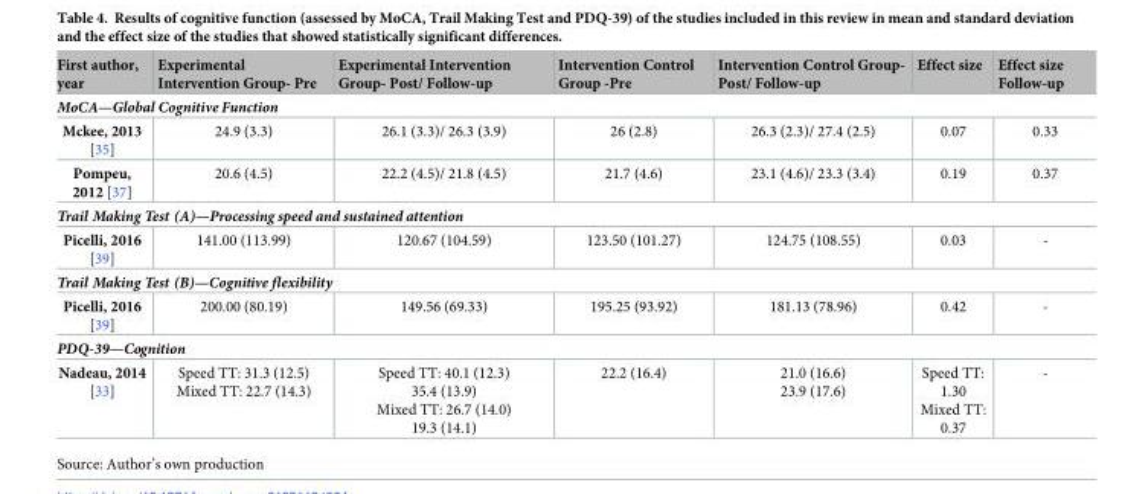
<table><thead><tr><td>First author, year</td><td>Experimental Intervention Group- Pre</td><td>Experimental Intervention Group- Post/ Follow-up</td><td>Intervention Control Group -Pre</td><td>Intervention Control Group- Post/ Follow-up</td><td>Effect size</td><td>Effect size Follow-up</td></tr></thead><tbody><tr><td colspan="7">MoCA—Global Cognitive Function</td></tr><tr><td>Mckee, 2013 [35]</td><td>24.9 (3.3)</td><td>26.1 (3.3)/ 26.3 (3.9)</td><td>26 (2.8)</td><td>26.3 (2.3)/ 27.4 (2.5)</td><td>0.07</td><td>0.33</td></tr><tr><td>Pompeu, 2012 [37]</td><td>20.6 (4.5)</td><td>22.2 (4.5)/ 21.8 (4.5)</td><td>21.7 (4.6)</td><td>23.1 (4.6)/ 23.3 (3.4)</td><td>0.19</td><td>0.37</td></tr><tr><td colspan="7">Trail Making Test (A)—Processing speed and sustained attention</td></tr><tr><td>Picelli, 2016 [39]</td><td>141.00 (113.99)</td><td>120.67 (104.59)</td><td>123.50 (101.27)</td><td>124.75 (108.55)</td><td>0.03</td><td>-</td></tr><tr><td colspan="7">Trail Making Test (B)—Cognitive flexibility</td></tr><tr><td>Picelli, 2016 [39]</td><td>200.00 (80.19)</td><td>149.56 (69.33)</td><td>195.25 (93.92)</td><td>181.13 (78.96)</td><td>0.42</td><td>-</td></tr><tr><td colspan="7">PDQ-39—Cognition</td></tr><tr><td>Nadeau, 2014 [33]</td><td>Speed TT: 31.3 (12.5) Mixed TT: 22.7 (14.3)</td><td>Speed TT: 40.1 (12.3) 35.4 (13.9) Mixed TT: 26.7 (14.0) 19.3 (14.1)</td><td>22.2 (16.4)</td><td>21.0 (16.6) 23.9 (17.6)</td><td>Speed TT: 1.30 Mixed TT: 0.37</td><td>-</td></tr></tbody></table>